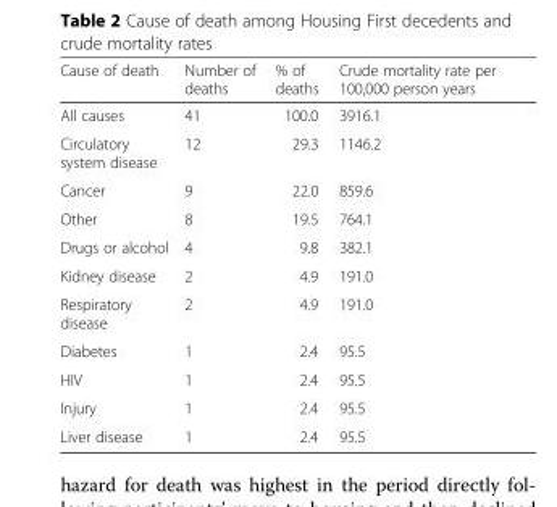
<table><thead><tr><td>Cause of death</td><td>Number of deaths</td><td>% of deaths</td><td>Crude mortality rate per 100,000 person years</td></tr></thead><tbody><tr><td>All causes</td><td>41</td><td>100.0</td><td>3916.1</td></tr><tr><td>Circulatory system disease</td><td>12</td><td>29.3</td><td>1146.2</td></tr><tr><td>Cancer</td><td>9</td><td>22.0</td><td>859.6</td></tr><tr><td>Other</td><td>8</td><td>19.5</td><td>764.1</td></tr><tr><td>Drugs or alcohol</td><td>4</td><td>9.8</td><td>382.1</td></tr><tr><td>Kidney disease</td><td>2</td><td>4.9</td><td>191.0</td></tr><tr><td>Respiratory disease</td><td>2</td><td>4.9</td><td>191.0</td></tr><tr><td>Diabetes</td><td>1</td><td>2.4</td><td>95.5</td></tr><tr><td>HIV</td><td>1</td><td>2.4</td><td>95.5</td></tr><tr><td>Injury</td><td>1</td><td>2.4</td><td>95.5</td></tr><tr><td>Liver disease</td><td>1</td><td>2.4</td><td>95.5</td></tr></tbody></table>